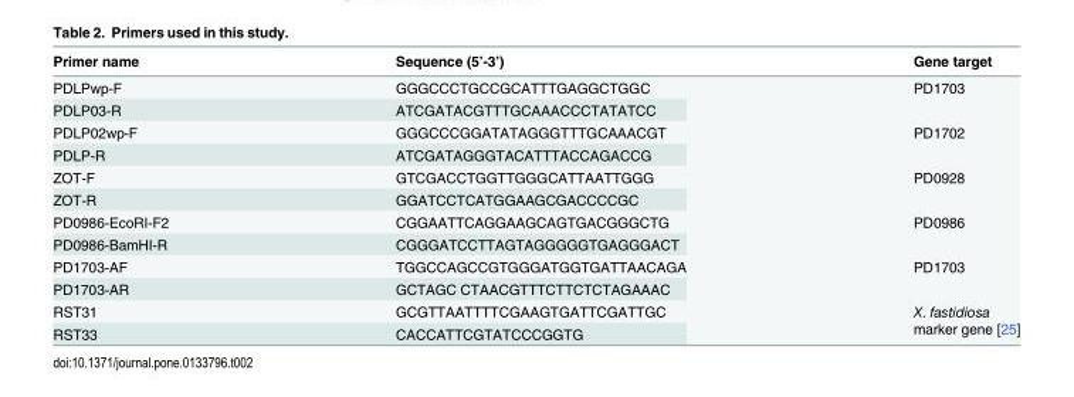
<table><thead><tr><td>Primer name</td><td>Sequence (5’-3’)</td><td>Gene target</td></tr></thead><tbody><tr><td>PDLPwp-F</td><td>GGGCCCTGCCGCATTTGAGGCTGGC</td><td rowspan="2">PD1703</td></tr><tr><td>PDLP03-R</td><td>ATCGATACGTTTGCAAACCCTATATCC</td></tr><tr><td>PDLP02wp-F</td><td>GGGCCCGGATATAGGGTTTGCAAACGT</td><td rowspan="2">PD1702</td></tr><tr><td>PDLP-R</td><td>ATCGATAGGGTACATTTACCAGACCG</td></tr><tr><td>ZOT-F</td><td>GTCGACCTGGTTGGGCATTAATTGGG</td><td rowspan="2">PD0928</td></tr><tr><td>ZOT-R</td><td>GGATCCTCATGGAAGCGACCCCGC</td></tr><tr><td>PD0986-EcoRI-F2</td><td>CGGAATTCAGGAAGCAGTGACGGGCTG</td><td rowspan="2">PD0986</td></tr><tr><td>PD0986-BamHI-R</td><td>CGGGATCCTTAGTAGGGGGTGAGGGACT</td></tr><tr><td>PD1703-AF</td><td>TGGCCAGCCGTGGGATGGTGATTAACAGA</td><td rowspan="2">PD1703</td></tr><tr><td>PD1703-AR</td><td>GCTAGC CTAACGTTTCTTCTCTAGAAAC</td></tr><tr><td>RST31</td><td>GCGTTAATTTTCGAAGTGATTCGATTGC</td><td rowspan="2">X. fastidiosa marker gene [25]</td></tr><tr><td>RST33</td><td>CACCATTCGTATCCCGGTG</td></tr></tbody></table>